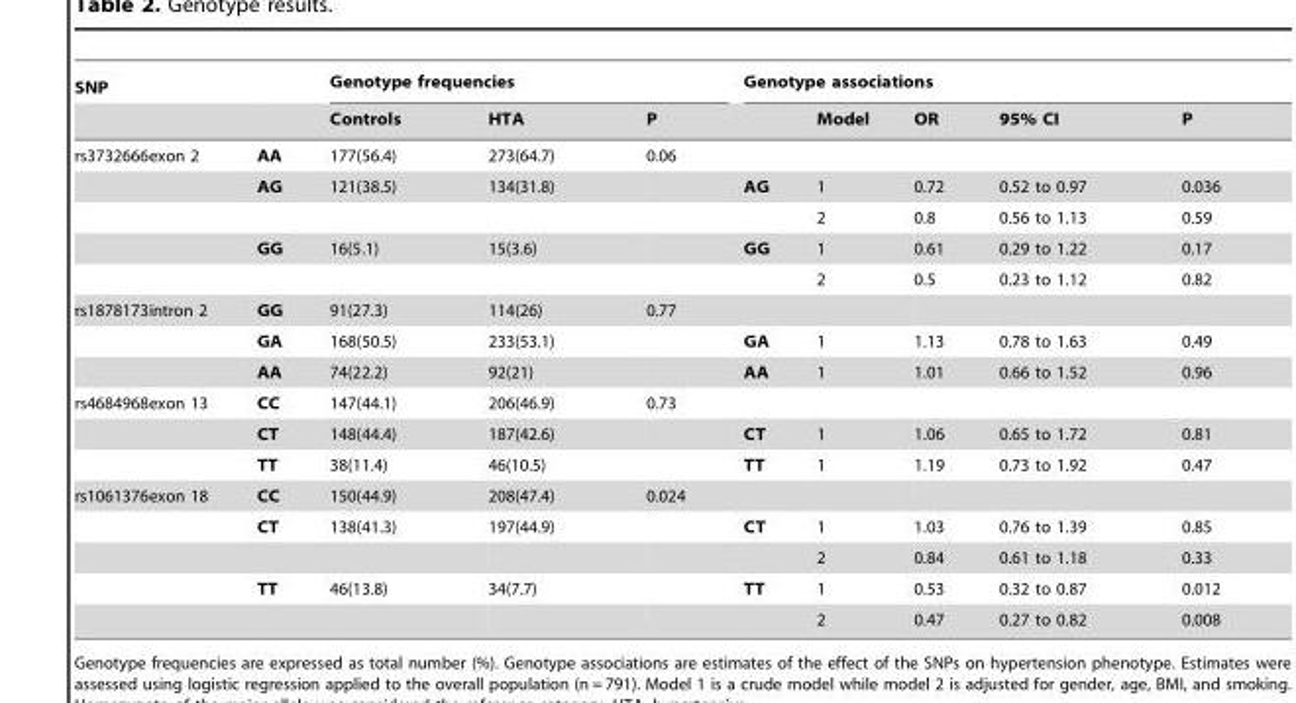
<table><thead><tr><td rowspan="2">SNP</td><td rowspan="2"></td><td colspan="3">Genotype frequencies</td><td colspan="5">Genotype associations</td></tr><tr><td>Controls</td><td>HTA</td><td>P</td><td></td><td>Model</td><td>OR</td><td>95% CI</td><td>P</td></tr></thead><tbody><tr><td rowspan="5">rs3732666exon 2</td><td>AA</td><td>177(56.4)</td><td>273(64.7)</td><td>0.06</td><td></td><td></td><td></td><td></td><td></td></tr><tr><td>AG</td><td>121(38.5)</td><td>134(31.8)</td><td></td><td>AG</td><td>1</td><td>0.72</td><td>0.52 to 0.97</td><td>0.036</td></tr><tr><td></td><td></td><td></td><td></td><td></td><td>2</td><td>0.8</td><td>0.56 to 1.13</td><td>0.59</td></tr><tr><td>GG</td><td>16(5.1)</td><td>15(3.6)</td><td></td><td>GG</td><td>1</td><td>0.61</td><td>0.29 to 1.22</td><td>0.17</td></tr><tr><td></td><td></td><td></td><td></td><td></td><td>2</td><td>0.5</td><td>0.23 to 1.12</td><td>0.82</td></tr><tr><td rowspan="3">rs1878173intron 2</td><td>GG</td><td>91(27.3)</td><td>114(26)</td><td>0.77</td><td></td><td></td><td></td><td></td><td></td></tr><tr><td>GA</td><td>168(50.5)</td><td>233(53.1)</td><td></td><td>GA</td><td>1</td><td>1.13</td><td>0.78 to 1.63</td><td>0.49</td></tr><tr><td>AA</td><td>74(22.2)</td><td>92(21)</td><td></td><td>AA</td><td>1</td><td>1.01</td><td>0.66 to 1.52</td><td>0.96</td></tr><tr><td rowspan="3">rs4684968exon 13</td><td>CC</td><td>147(44.1)</td><td>206(46.9)</td><td>0.73</td><td></td><td></td><td></td><td></td><td></td></tr><tr><td>CT</td><td>148(44.4)</td><td>187(42.6)</td><td></td><td>CT</td><td>1</td><td>1.06</td><td>0.65 to 1.72</td><td>0.81</td></tr><tr><td>TT</td><td>38(11.4)</td><td>46(10.5)</td><td></td><td>TT</td><td>1</td><td>1.19</td><td>0.73 to 1.92</td><td>0.47</td></tr><tr><td rowspan="5">rs1061376exon 18</td><td>CC</td><td>150(44.9)</td><td>208(47.4)</td><td>0.024</td><td></td><td></td><td></td><td></td><td></td></tr><tr><td>CT</td><td>138(41.3)</td><td>197(44.9)</td><td></td><td>CT</td><td>1</td><td>1.03</td><td>0.76 to 1.39</td><td>0.85</td></tr><tr><td></td><td></td><td></td><td></td><td></td><td>2</td><td>0.84</td><td>0.61 to 1.18</td><td>0.33</td></tr><tr><td>TT</td><td>46(13.8)</td><td>34(7.7)</td><td></td><td>TT</td><td>1</td><td>0.53</td><td>0.32 to 0.87</td><td>0.012</td></tr><tr><td></td><td></td><td></td><td></td><td></td><td>2</td><td>0.47</td><td>0.27 to 0.82</td><td>0.008</td></tr></tbody></table>